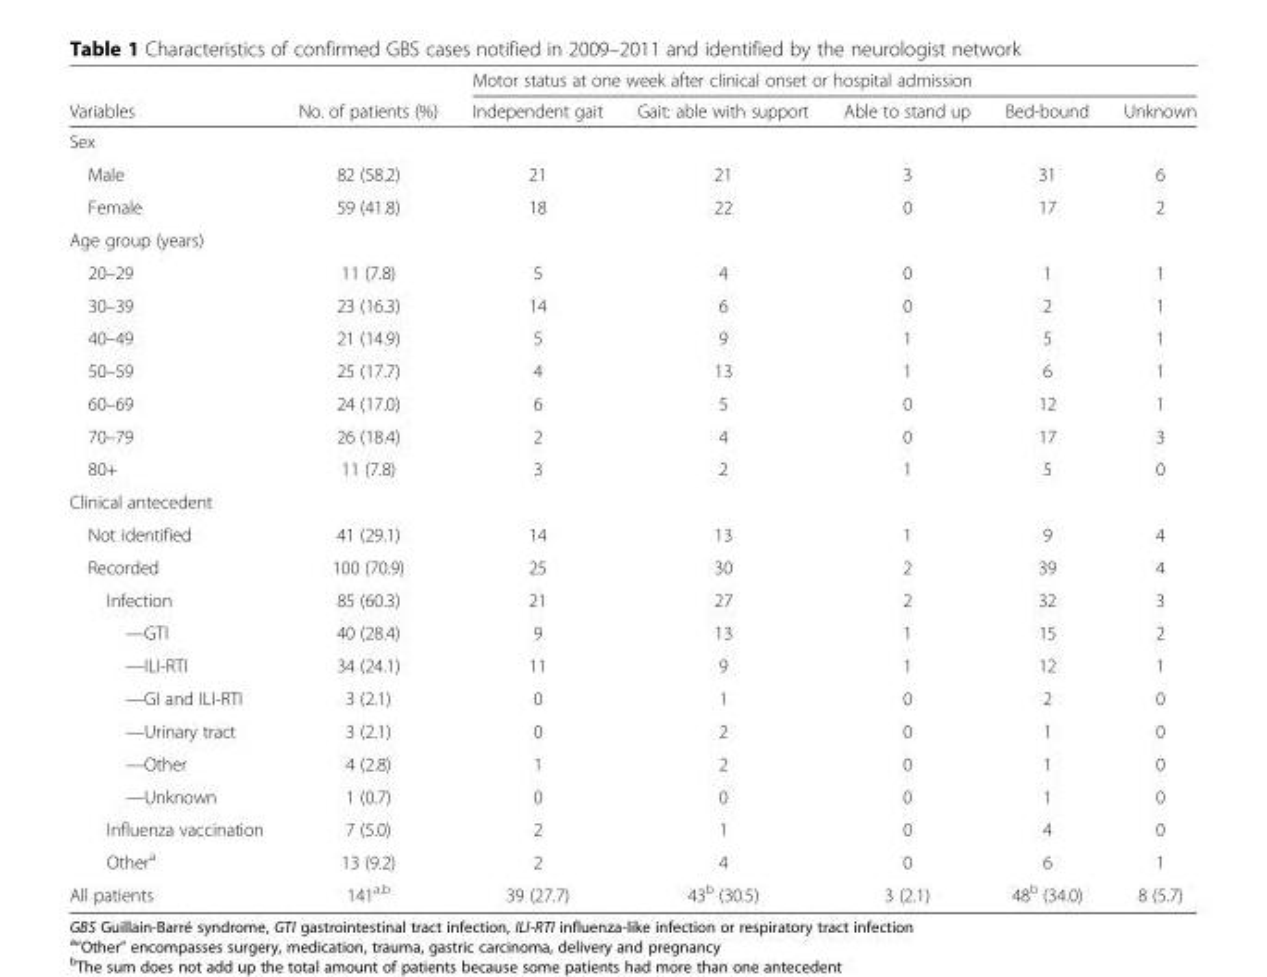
<table><thead><tr><td rowspan="2">Variables</td><td rowspan="2">No. of patients (%)</td><td colspan="5">Motor status at one week after clinical onset or hospital admission</td></tr><tr><td>Independent gait</td><td>Gait: able with support</td><td>Able to stand up</td><td>Bed-bound</td><td>Unknown</td></tr></thead><tbody><tr><td colspan="7">Sex</td></tr><tr><td>Male</td><td>82 (58.2)</td><td>21</td><td>21</td><td>3</td><td>31</td><td>6</td></tr><tr><td>Female</td><td>59 (41.8)</td><td>18</td><td>22</td><td>0</td><td>17</td><td>2</td></tr><tr><td colspan="7">Age group (years)</td></tr><tr><td>20–29</td><td>11 (7.8)</td><td>5</td><td>4</td><td>0</td><td>1</td><td>1</td></tr><tr><td>30–39</td><td>23 (16.3)</td><td>14</td><td>6</td><td>0</td><td>2</td><td>1</td></tr><tr><td>40–49</td><td>21 (14.9)</td><td>5</td><td>9</td><td>1</td><td>5</td><td>1</td></tr><tr><td>50–59</td><td>25 (17.7)</td><td>4</td><td>13</td><td>1</td><td>6</td><td>1</td></tr><tr><td>60–69</td><td>24 (17.0)</td><td>6</td><td>5</td><td>0</td><td>12</td><td>1</td></tr><tr><td>70–79</td><td>26 (18.4)</td><td>2</td><td>4</td><td>0</td><td>17</td><td>3</td></tr><tr><td>80+</td><td>11 (7.8)</td><td>3</td><td>2</td><td>1</td><td>5</td><td>0</td></tr><tr><td colspan="7">Clinical antecedent</td></tr><tr><td>Not identified</td><td>41 (29.1)</td><td>14</td><td>13</td><td>1</td><td>9</td><td>4</td></tr><tr><td>Recorded</td><td>100 (70.9)</td><td>25</td><td>30</td><td>2</td><td>39</td><td>4</td></tr><tr><td>Infection</td><td>85 (60.3)</td><td>21</td><td>27</td><td>2</td><td>32</td><td>3</td></tr><tr><td>—GTI</td><td>40 (28.4)</td><td>9</td><td>13</td><td>1</td><td>15</td><td>2</td></tr><tr><td>—ILI-RTI</td><td>34 (24.1)</td><td>11</td><td>9</td><td>1</td><td>12</td><td>1</td></tr><tr><td>—GI and ILI-RTI</td><td>3 (2.1)</td><td>0</td><td>1</td><td>0</td><td>2</td><td>0</td></tr><tr><td>—Urinary tract</td><td>3 (2.1)</td><td>0</td><td>2</td><td>0</td><td>1</td><td>0</td></tr><tr><td>—Other</td><td>4 (2.8)</td><td>1</td><td>2</td><td>0</td><td>1</td><td>0</td></tr><tr><td>—Unknown</td><td>1 (0.7)</td><td>0</td><td>0</td><td>0</td><td>1</td><td>0</td></tr><tr><td>Influenza vaccination</td><td>7 (5.0)</td><td>2</td><td>1</td><td>0</td><td>4</td><td>0</td></tr><tr><td>Other<sup>a</sup></td><td>13 (9.2)</td><td>2</td><td>4</td><td>0</td><td>6</td><td>1</td></tr><tr><td>All patients</td><td>141<sup>a,b</sup></td><td>39 (27.7)</td><td>43<sup>b</sup> (30.5)</td><td>3 (2.1)</td><td>48<sup>b</sup> (34.0)</td><td>8 (5.7)</td></tr></tbody></table>